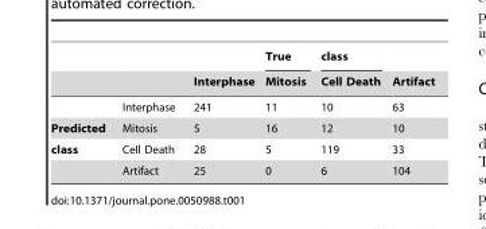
<table><thead><tr><td rowspan="2"></td><td rowspan="2"></td><td rowspan="2">Interphase</td><td rowspan="2">True Mitosis</td><td rowspan="2">class Cell Death</td><td rowspan="2">Artifact</td></tr><tr></tr></thead><tbody><tr><td></td><td>Interphase</td><td>241</td><td>11</td><td>10</td><td>63</td></tr><tr><td>Predicted</td><td>Mitosis</td><td>5</td><td>16</td><td>12</td><td>10</td></tr><tr><td rowspan="2">class</td><td>Cell Death</td><td>28</td><td>5</td><td>119</td><td>33</td></tr><tr><td>Artifact</td><td>25</td><td>0</td><td>6</td><td>104</td></tr></tbody></table>